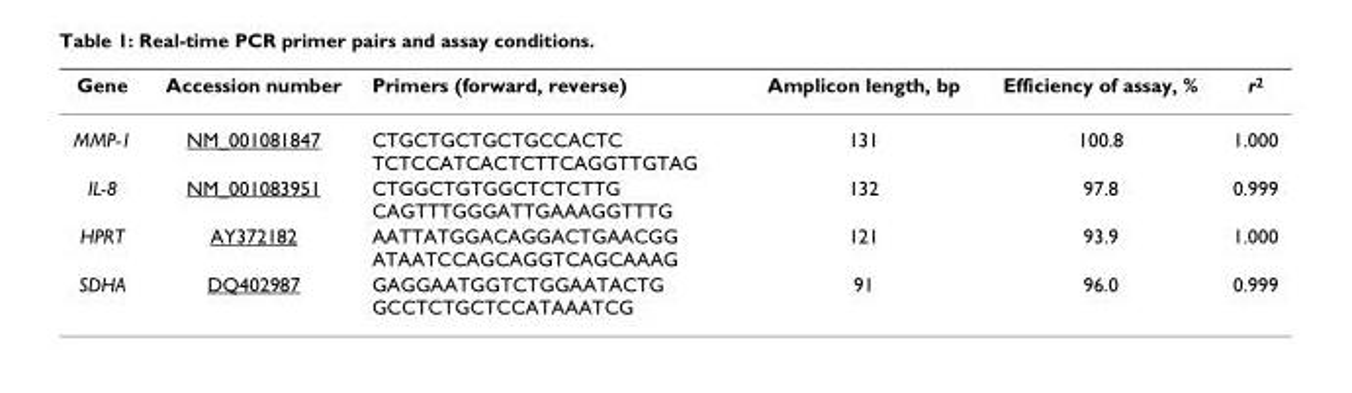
<table><thead><tr><td>Gene</td><td>Accession number</td><td>Primers (forward, reverse)</td><td>Amplicon length, bp</td><td>Efficiency of assay, %</td><td>r<sup>2</sup></td></tr></thead><tbody><tr><td>MMP-1</td><td>NM_001081847</td><td>CTGCTGCTGCTGCCACTC TCTCCATCACTCTTCAGGTTGTAG</td><td>131</td><td>100.8</td><td>1.000</td></tr><tr><td>IL-8</td><td>NM_001083951</td><td>CTGGCTGTGGCTCTCTTG CAGTTTGGGATTGAAAGGTTTG</td><td>132</td><td>97.8</td><td>0.999</td></tr><tr><td>HPRT</td><td>AY372182</td><td>AATTATGGACAGGACTGAACGG ATAATCCAGCAGGTCAGCAAAG</td><td>121</td><td>93.9</td><td>1.000</td></tr><tr><td>SDHA</td><td>DQ402987</td><td>GAGGAATGGTCTGGAATACTG GCCTCTGCTCCATAAATCG</td><td>91</td><td>96.0</td><td>0.999</td></tr></tbody></table>